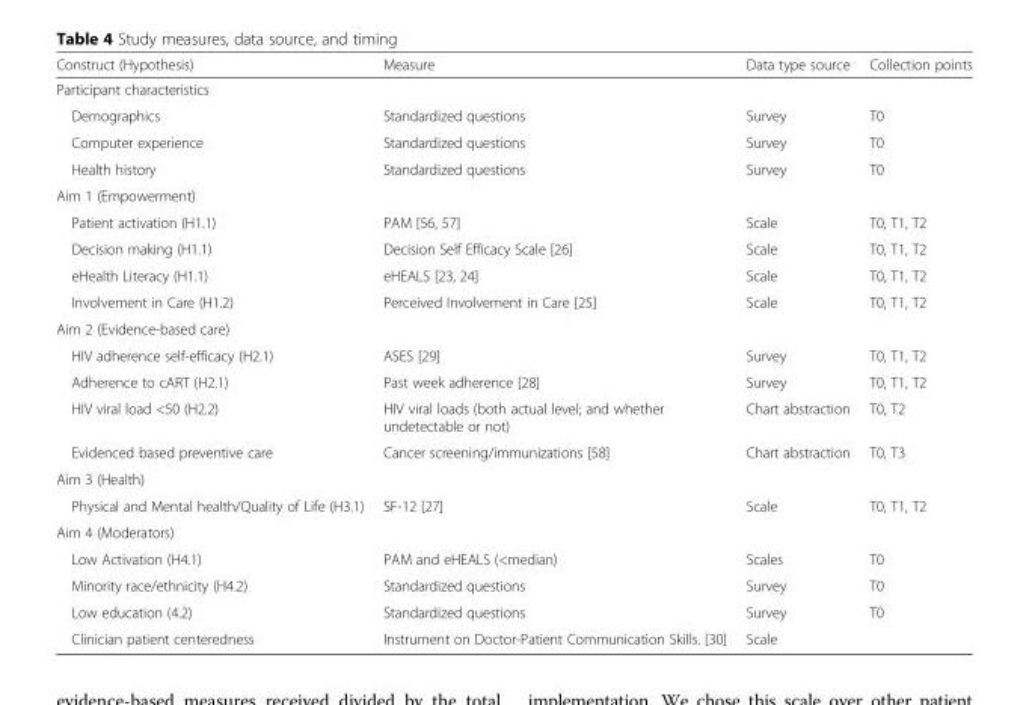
<table><thead><tr><td>Construct (Hypothesis)</td><td>Measure</td><td>Data type source</td><td>Collection points</td></tr></thead><tbody><tr><td colspan="4">Participant characteristics</td></tr><tr><td>Demographics</td><td>Standardized questions</td><td>Survey</td><td>T0</td></tr><tr><td>Computer experience</td><td>Standardized questions</td><td>Survey</td><td>T0</td></tr><tr><td>Health history</td><td>Standardized questions</td><td>Survey</td><td>T0</td></tr><tr><td colspan="4">Aim 1 (Empowerment)</td></tr><tr><td>Patient activation (H1.1)</td><td>PAM [56, 57]</td><td>Scale</td><td>T0, T1, T2</td></tr><tr><td>Decision making (H1.1)</td><td>Decision Self Efficacy Scale [26]</td><td>Scale</td><td>T0, T1, T2</td></tr><tr><td>eHealth Literacy (H1.1)</td><td>eHEALS [23, 24]</td><td>Scale</td><td>T0, T1, T2</td></tr><tr><td>Involvement in Care (H1.2)</td><td>Perceived Involvement in Care [25]</td><td>Scale</td><td>T0, T1, T2</td></tr><tr><td colspan="4">Aim 2 (Evidence-based care)</td></tr><tr><td>HIV adherence self-efficacy (H2.1)</td><td>ASES [29]</td><td>Survey</td><td>T0, T1, T2</td></tr><tr><td>Adherence to cART (H2.1)</td><td>Past week adherence [28]</td><td>Survey</td><td>T0, T1, T2</td></tr><tr><td>HIV viral load &lt;50 (H2.2)</td><td>HIV viral loads (both actual level; and whether undetectable or not)</td><td>Chart abstraction</td><td>T0, T2</td></tr><tr><td>Evidenced based preventive care</td><td>Cancer screening/immunizations [58]</td><td>Chart abstraction</td><td>T0, T3</td></tr><tr><td colspan="4">Aim 3 (Health)</td></tr><tr><td>Physical and Mental health/Quality of Life (H3.1)</td><td>SF-12 [27]</td><td>Scale</td><td>T0, T1, T2</td></tr><tr><td colspan="4">Aim 4 (Moderators)</td></tr><tr><td>Low Activation (H4.1)</td><td>PAM and eHEALS (&lt;median)</td><td>Scales</td><td>T0</td></tr><tr><td>Minority race/ethnicity (H4.2)</td><td>Standardized questions</td><td>Survey</td><td>T0</td></tr><tr><td>Low education (4.2)</td><td>Standardized questions</td><td>Survey</td><td>T0</td></tr><tr><td>Clinician patient centeredness</td><td>Instrument on Doctor-Patient Communication Skills. [30]</td><td>Scale</td><td></td></tr></tbody></table>